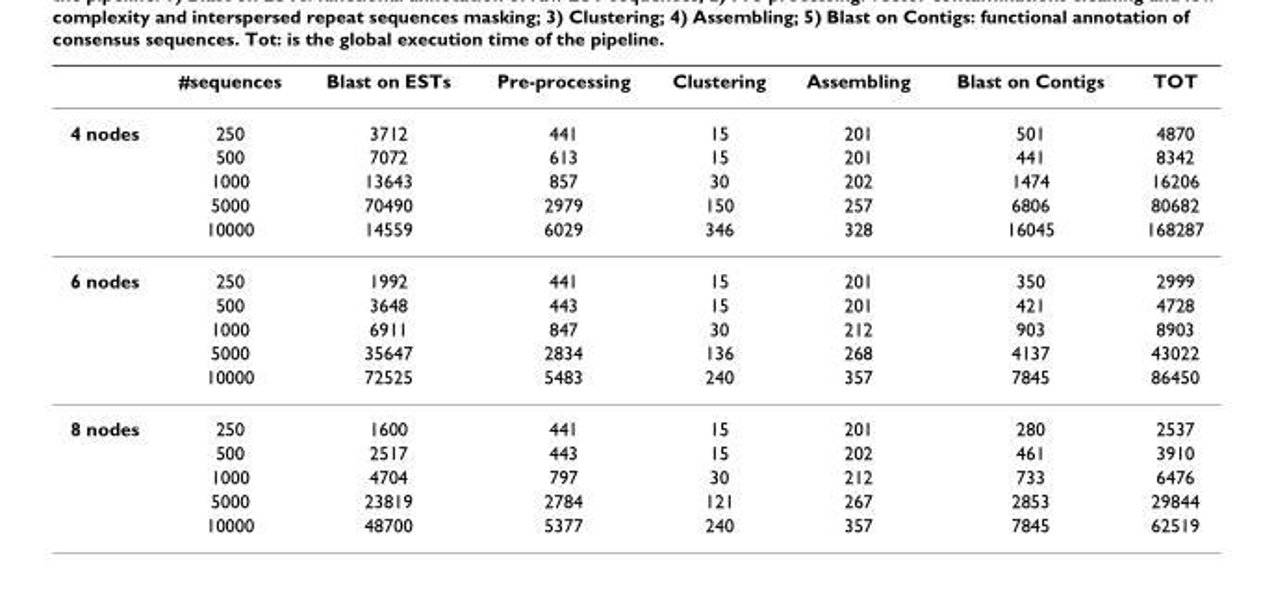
<table><thead><tr><td></td><td>#sequences</td><td>Blast on ESTs</td><td>Pre-processing</td><td>Clustering</td><td>Assembling</td><td>Blast on Contigs</td><td>TOT</td></tr></thead><tbody><tr><td rowspan="5">4 nodes</td><td>250</td><td>3712</td><td>441</td><td>15</td><td>201</td><td>501</td><td>4870</td></tr><tr><td>500</td><td>7072</td><td>613</td><td>15</td><td>201</td><td>441</td><td>8342</td></tr><tr><td>1000</td><td>13643</td><td>857</td><td>30</td><td>202</td><td>1474</td><td>16206</td></tr><tr><td>5000</td><td>70490</td><td>2979</td><td>150</td><td>257</td><td>6806</td><td>80682</td></tr><tr><td>10000</td><td>14559</td><td>6029</td><td>346</td><td>328</td><td>16045</td><td>168287</td></tr><tr><td rowspan="5">6 nodes</td><td>250</td><td>1992</td><td>441</td><td>15</td><td>201</td><td>350</td><td>2999</td></tr><tr><td>500</td><td>3648</td><td>443</td><td>15</td><td>201</td><td>421</td><td>4728</td></tr><tr><td>1000</td><td>6911</td><td>847</td><td>30</td><td>212</td><td>903</td><td>8903</td></tr><tr><td>5000</td><td>35647</td><td>2834</td><td>136</td><td>268</td><td>4137</td><td>43022</td></tr><tr><td>10000</td><td>72525</td><td>5483</td><td>240</td><td>357</td><td>7845</td><td>86450</td></tr><tr><td rowspan="5">8 nodes</td><td>250</td><td>1600</td><td>441</td><td>15</td><td>201</td><td>280</td><td>2537</td></tr><tr><td>500</td><td>2517</td><td>443</td><td>15</td><td>202</td><td>461</td><td>3910</td></tr><tr><td>1000</td><td>4704</td><td>797</td><td>30</td><td>212</td><td>733</td><td>6476</td></tr><tr><td>5000</td><td>23819</td><td>2784</td><td>121</td><td>267</td><td>2853</td><td>29844</td></tr><tr><td>10000</td><td>48700</td><td>5377</td><td>240</td><td>357</td><td>7845</td><td>62519</td></tr></tbody></table>